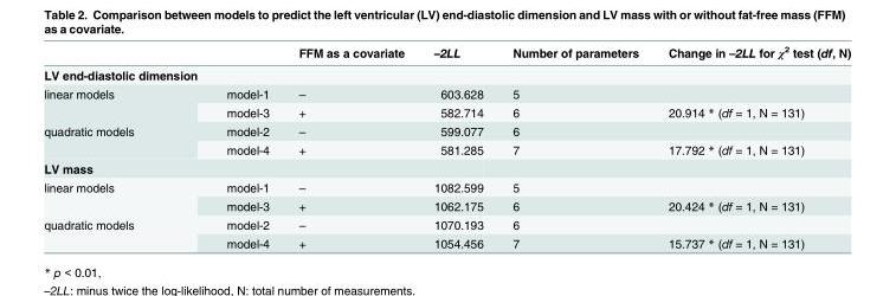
<table><thead><tr><td></td><td></td><td>FFM as a covariate</td><td>–2LL</td><td>Number of parameters</td><td>Change in –2LL for χ<sup>2</sup> test (df, N)</td></tr></thead><tbody><tr><td colspan="6">LV end-diastolic dimension</td></tr><tr><td rowspan="2">linear models</td><td>model-1</td><td>–</td><td>603.628</td><td>5</td><td></td></tr><tr><td>model-3</td><td>+</td><td>582.714</td><td>6</td><td>20.914 * (df = 1, N = 131)</td></tr><tr><td rowspan="2">quadratic models</td><td>model-2</td><td>–</td><td>599.077</td><td>6</td><td></td></tr><tr><td>model-4</td><td>+</td><td>581.285</td><td>7</td><td>17.792 * (df = 1, N = 131)</td></tr><tr><td colspan="6">LV mass</td></tr><tr><td rowspan="2">linear models</td><td>model-1</td><td>–</td><td>1082.599</td><td>5</td><td></td></tr><tr><td>model-3</td><td>+</td><td>1062.175</td><td>6</td><td>20.424 * (df = 1, N = 131)</td></tr><tr><td rowspan="2">quadratic models</td><td>model-2</td><td>–</td><td>1070.193</td><td>6</td><td></td></tr><tr><td>model-4</td><td>+</td><td>1054.456</td><td>7</td><td>15.737 * (df = 1, N = 131)</td></tr></tbody></table>